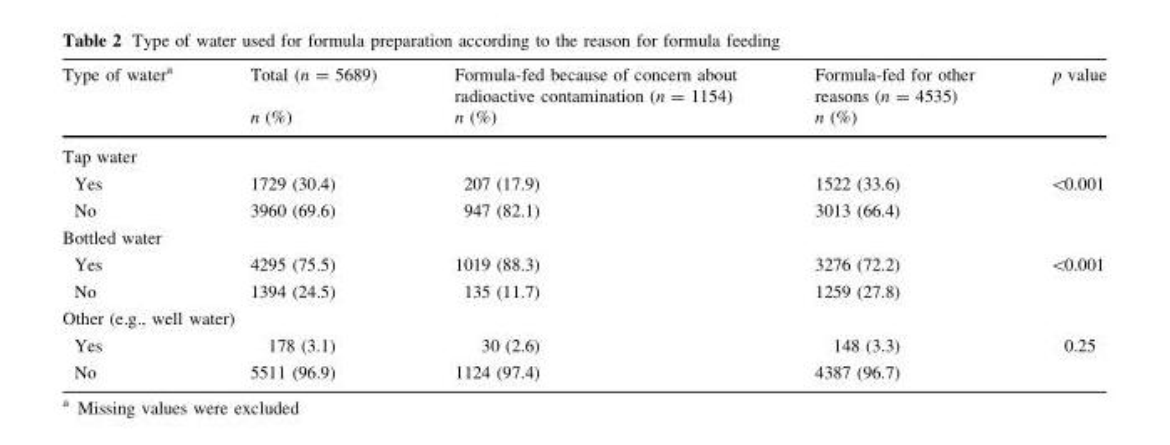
<table><thead><tr><td rowspan="2">Type of water<sup>a</sup></td><td rowspan="2">Total (n = 5689) n (%)</td><td rowspan="2">Formula-fed because of concern about radioactive contamination (n = 1154) n (%)</td><td rowspan="2">Formula-fed for other reasons (n = 4535) n (%)</td><td rowspan="2">p value</td></tr><tr></tr></thead><tbody><tr><td colspan="5">Tap water</td></tr><tr><td>Yes</td><td>1729 (30.4)</td><td>207 (17.9)</td><td>1522 (33.6)</td><td rowspan="2">&lt;0.001</td></tr><tr><td>No</td><td>3960 (69.6)</td><td>947 (82.1)</td><td>3013 (66.4)</td></tr><tr><td colspan="5">Bottled water</td></tr><tr><td>Yes</td><td>4295 (75.5)</td><td>1019 (88.3)</td><td>3276 (72.2)</td><td rowspan="2">&lt;0.001</td></tr><tr><td>No</td><td>1394 (24.5)</td><td>135 (11.7)</td><td>1259 (27.8)</td></tr><tr><td colspan="5">Other (e.g., well water)</td></tr><tr><td>Yes</td><td>178 (3.1)</td><td>30 (2.6)</td><td>148 (3.3)</td><td rowspan="2">0.25</td></tr><tr><td>No</td><td>5511 (96.9)</td><td>1124 (97.4)</td><td>4387 (96.7)</td></tr></tbody></table>